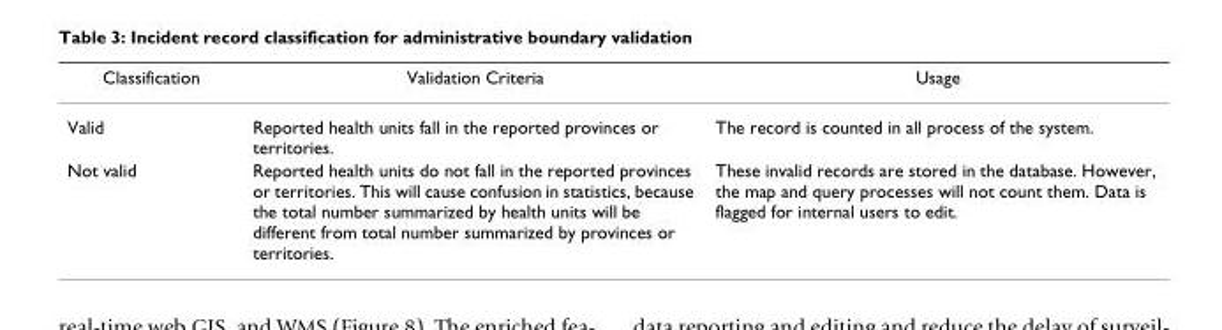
<table><thead><tr><td>Classification</td><td>Validation Criteria</td><td>Usage</td></tr></thead><tbody><tr><td>Valid</td><td>Reported health units fall in the reported provinces or territories.</td><td>The record is counted in all process of the system.</td></tr><tr><td>Not valid</td><td>Reported health units do not fall in the reported provinces or territories. This will cause confusion in statistics, because the total number summarized by health units will be different from total number summarized by provinces or territories.</td><td>These invalid records are stored in the database. However, the map and query processes will not count them. Data is flagged for internal users to edit.</td></tr></tbody></table>